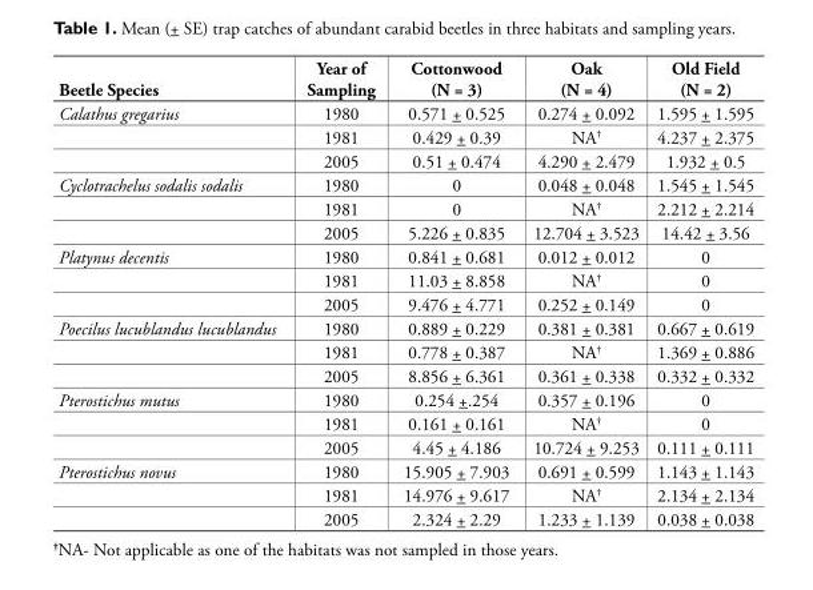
<table><thead><tr><td>Beetle Species</td><td>Year of Sampling</td><td>Cottonwood (N = 3)</td><td>Oak (N = 4)</td><td>Old Field (N = 2)</td></tr></thead><tbody><tr><td rowspan="3">Calathus gregarius</td><td>1980</td><td>0.571 + 0.525</td><td>0.274 + 0.092</td><td>1.595 + 1.595</td></tr><tr><td>1981</td><td>0.429 + 0.39</td><td>NA<sup>†</sup></td><td>4.237 + 2.375</td></tr><tr><td>2005</td><td>0.51 + 0.474</td><td>4.290 + 2.479</td><td>1.932 + 0.5</td></tr><tr><td rowspan="3">Cyclotrachelus sodalis sodalis</td><td>1980</td><td>0</td><td>0.048 + 0.048</td><td>1.545 + 1.545</td></tr><tr><td>1981</td><td>0</td><td>NA<sup>†</sup></td><td>2.212 + 2.214</td></tr><tr><td>2005</td><td>5.226 + 0.835</td><td>12.704 + 3.523</td><td>14.42 + 3.56</td></tr><tr><td rowspan="3">Platynus decentis</td><td>1980</td><td>0.841 + 0.681</td><td>0.012 + 0.012</td><td>0</td></tr><tr><td>1981</td><td>11.03 + 8.858</td><td>NA<sup>†</sup></td><td>0</td></tr><tr><td>2005</td><td>9.476 + 4.771</td><td>0.252 + 0.149</td><td>0</td></tr><tr><td rowspan="3">Poecilus lucublandus lucublandus</td><td>1980</td><td>0.889 + 0.229</td><td>0.381 + 0.381</td><td>0.667 + 0.619</td></tr><tr><td>1981</td><td>0.778 + 0.387</td><td>NA<sup>†</sup></td><td>1.369 + 0.886</td></tr><tr><td>2005</td><td>8.856 + 6.361</td><td>0.361 + 0.338</td><td>0.332 + 0.332</td></tr><tr><td rowspan="3">Pterostichus mutus</td><td>1980</td><td>0.254 +.254</td><td>0.357 + 0.196</td><td>0</td></tr><tr><td>1981</td><td>0.161 + 0.161</td><td>NA<sup>†</sup></td><td>0</td></tr><tr><td>2005</td><td>4.45 + 4.186</td><td>10.724 + 9.253</td><td>0.111 + 0.111</td></tr><tr><td rowspan="3">Pterostichus novus</td><td>1980</td><td>15.905 + 7.903</td><td>0.691 + 0.599</td><td>1.143 + 1.143</td></tr><tr><td>1981</td><td>14.976 + 9.617</td><td>NA<sup>†</sup></td><td>2.134 + 2.134</td></tr><tr><td>2005</td><td>2.324 + 2.29</td><td>1.233 + 1.139</td><td>0.038 + 0.038</td></tr></tbody></table>